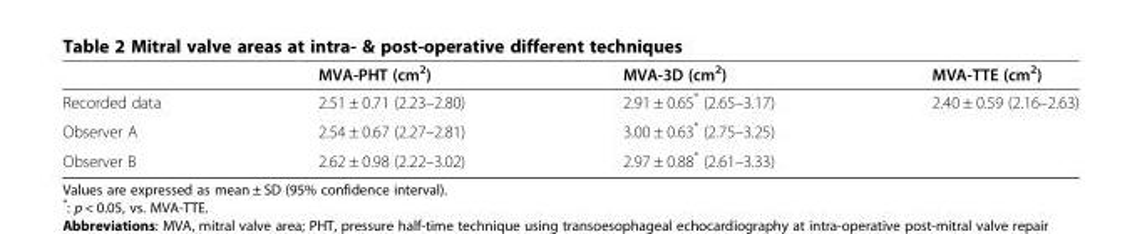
<table><thead><tr><td></td><td>MVA-PHT (cm<sup>2</sup>)</td><td>MVA-3D (cm<sup>2</sup>)</td><td>MVA-TTE (cm<sup>2</sup>)</td></tr></thead><tbody><tr><td>Recorded data</td><td>2.51 ± 0.71 (2.23–2.80)</td><td>2.91 ± 0.65* (2.65–3.17)</td><td>2.40 ± 0.59 (2.16–2.63)</td></tr><tr><td>Observer A</td><td>2.54 ± 0.67 (2.27–2.81)</td><td>3.00 ± 0.63* (2.75–3.25)</td><td></td></tr><tr><td>Observer B</td><td>2.62 ± 0.98 (2.22–3.02)</td><td>2.97 ± 0.88* (2.61–3.33)</td><td></td></tr></tbody></table>